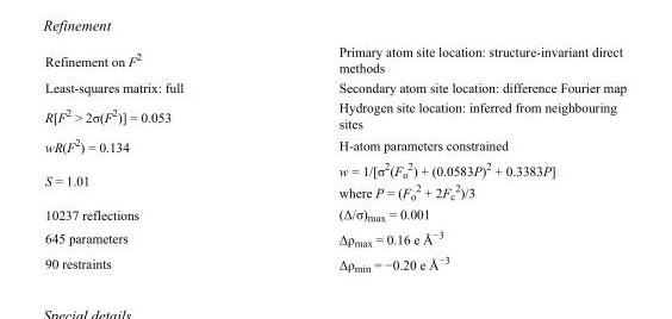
<table><tbody><tr><td>Refinement on F<sup>2</sup></td><td>Primary atom site location: structure-invariant direct methods</td></tr><tr><td>Least-squares matrix: full</td><td>Secondary atom site location: difference Fourier map</td></tr><tr><td>R[F<sup>2</sup> &gt; 2σ(F<sup>2</sup>)] = 0.053</td><td>Hydrogen site location: inferred from neighbouring sites</td></tr><tr><td>wR(F<sup>2</sup>) = 0.134</td><td>H-atom parameters constrained</td></tr><tr><td>S = 1.01</td><td>w = 1/[σ<sup>2</sup>(F<sub>o</sub> <sup>2</sup>) + (0.0583P)<sup>2</sup> + 0.3383P] where P = (F<sub>o</sub> <sup>2</sup> + 2F<sub>c</sub> <sup>2</sup>)/3</td></tr><tr><td>10237 reflections</td><td>(Δ/σ)<sub>max</sub> = 0.001</td></tr><tr><td>645 parameters</td><td>Δρ<sub>max</sub> = 0.16 e Å<sup>−3</sup></td></tr><tr><td>90 restraints</td><td>Δρ<sub>min</sub> = −0.20 e Å<sup>−3</sup></td></tr></tbody></table>